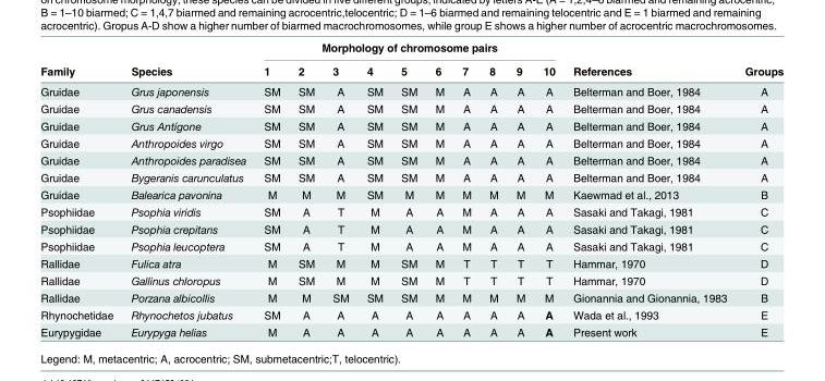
<table><thead><tr><td rowspan="2">Family</td><td rowspan="2">Species</td><td colspan="10">Morphology of chromosome pairs</td><td rowspan="2">References</td><td rowspan="2">Groups</td></tr><tr><td>1</td><td>2</td><td>3</td><td>4</td><td>5</td><td>6</td><td>7</td><td>8</td><td>9</td><td>10</td></tr></thead><tbody><tr><td>Gruidae</td><td>Grus japonensis</td><td>SM</td><td>SM</td><td>A</td><td>SM</td><td>SM</td><td>M</td><td>A</td><td>A</td><td>A</td><td>A</td><td>Belterman and Boer, 1984</td><td>A</td></tr><tr><td>Gruidae</td><td>Grus canadensis</td><td>SM</td><td>SM</td><td>A</td><td>SM</td><td>SM</td><td>M</td><td>A</td><td>A</td><td>A</td><td>A</td><td>Belterman and Boer, 1984</td><td>A</td></tr><tr><td>Gruidae</td><td>Grus Antígone</td><td>SM</td><td>SM</td><td>A</td><td>SM</td><td>SM</td><td>M</td><td>A</td><td>A</td><td>A</td><td>A</td><td>Belterman and Boer, 1984</td><td>A</td></tr><tr><td>Gruidae</td><td>Anthropoides virgo</td><td>SM</td><td>SM</td><td>A</td><td>SM</td><td>SM</td><td>M</td><td>A</td><td>A</td><td>A</td><td>A</td><td>Belterman and Boer, 1984</td><td>A</td></tr><tr><td>Gruidae</td><td>Anthropoides paradisea</td><td>SM</td><td>SM</td><td>A</td><td>SM</td><td>SM</td><td>M</td><td>A</td><td>A</td><td>A</td><td>A</td><td>Belterman and Boer, 1984</td><td>A</td></tr><tr><td>Gruidae</td><td>Bygeranis carunculatus</td><td>SM</td><td>SM</td><td>A</td><td>SM</td><td>SM</td><td>M</td><td>A</td><td>A</td><td>A</td><td>A</td><td>Belterman and Boer, 1984</td><td>A</td></tr><tr><td>Gruidae</td><td>Balearica pavonina</td><td>M</td><td>M</td><td>M</td><td>SM</td><td>M</td><td>M</td><td>M</td><td>M</td><td>M</td><td>M</td><td>Kaewmad et al., 2013</td><td>B</td></tr><tr><td>Psophiidae</td><td>Psophia viridis</td><td>SM</td><td>A</td><td>T</td><td>M</td><td>A</td><td>A</td><td>M</td><td>A</td><td>A</td><td>A</td><td>Sasaki and Takagi, 1981</td><td>C</td></tr><tr><td>Psophiidae</td><td>Psophia crepitans</td><td>SM</td><td>A</td><td>T</td><td>M</td><td>A</td><td>A</td><td>M</td><td>A</td><td>A</td><td>A</td><td>Sasaki and Takagi, 1981</td><td>C</td></tr><tr><td>Psophiidae</td><td>Psophia leucoptera</td><td>SM</td><td>A</td><td>T</td><td>M</td><td>A</td><td>A</td><td>M</td><td>A</td><td>A</td><td>A</td><td>Sasaki and Takagi, 1981</td><td>C</td></tr><tr><td>Rallidae</td><td>Fulica atra</td><td>M</td><td>SM</td><td>M</td><td>M</td><td>SM</td><td>M</td><td>T</td><td>T</td><td>T</td><td>T</td><td>Hammar, 1970</td><td>D</td></tr><tr><td>Rallidae</td><td>Gallinus chloropus</td><td>M</td><td>SM</td><td>M</td><td>M</td><td>SM</td><td>M</td><td>T</td><td>T</td><td>T</td><td>T</td><td>Hammar, 1970</td><td>D</td></tr><tr><td>Rallidae</td><td>Porzana albicollis</td><td>M</td><td>M</td><td>SM</td><td>SM</td><td>SM</td><td>M</td><td>M</td><td>M</td><td>M</td><td>M</td><td>Gionannia and Gionannia, 1983</td><td>B</td></tr><tr><td>Rhynochetidae</td><td>Rhynochetos jubatus</td><td>SM</td><td>A</td><td>A</td><td>A</td><td>A</td><td>A</td><td>A</td><td>A</td><td>A</td><td>A</td><td>Wada et al., 1993</td><td>E</td></tr><tr><td>Eurypygidae</td><td>Eurypyga helias</td><td>M</td><td>A</td><td>A</td><td>A</td><td>A</td><td>A</td><td>A</td><td>A</td><td>A</td><td>A</td><td>Present work</td><td>E</td></tr></tbody></table>